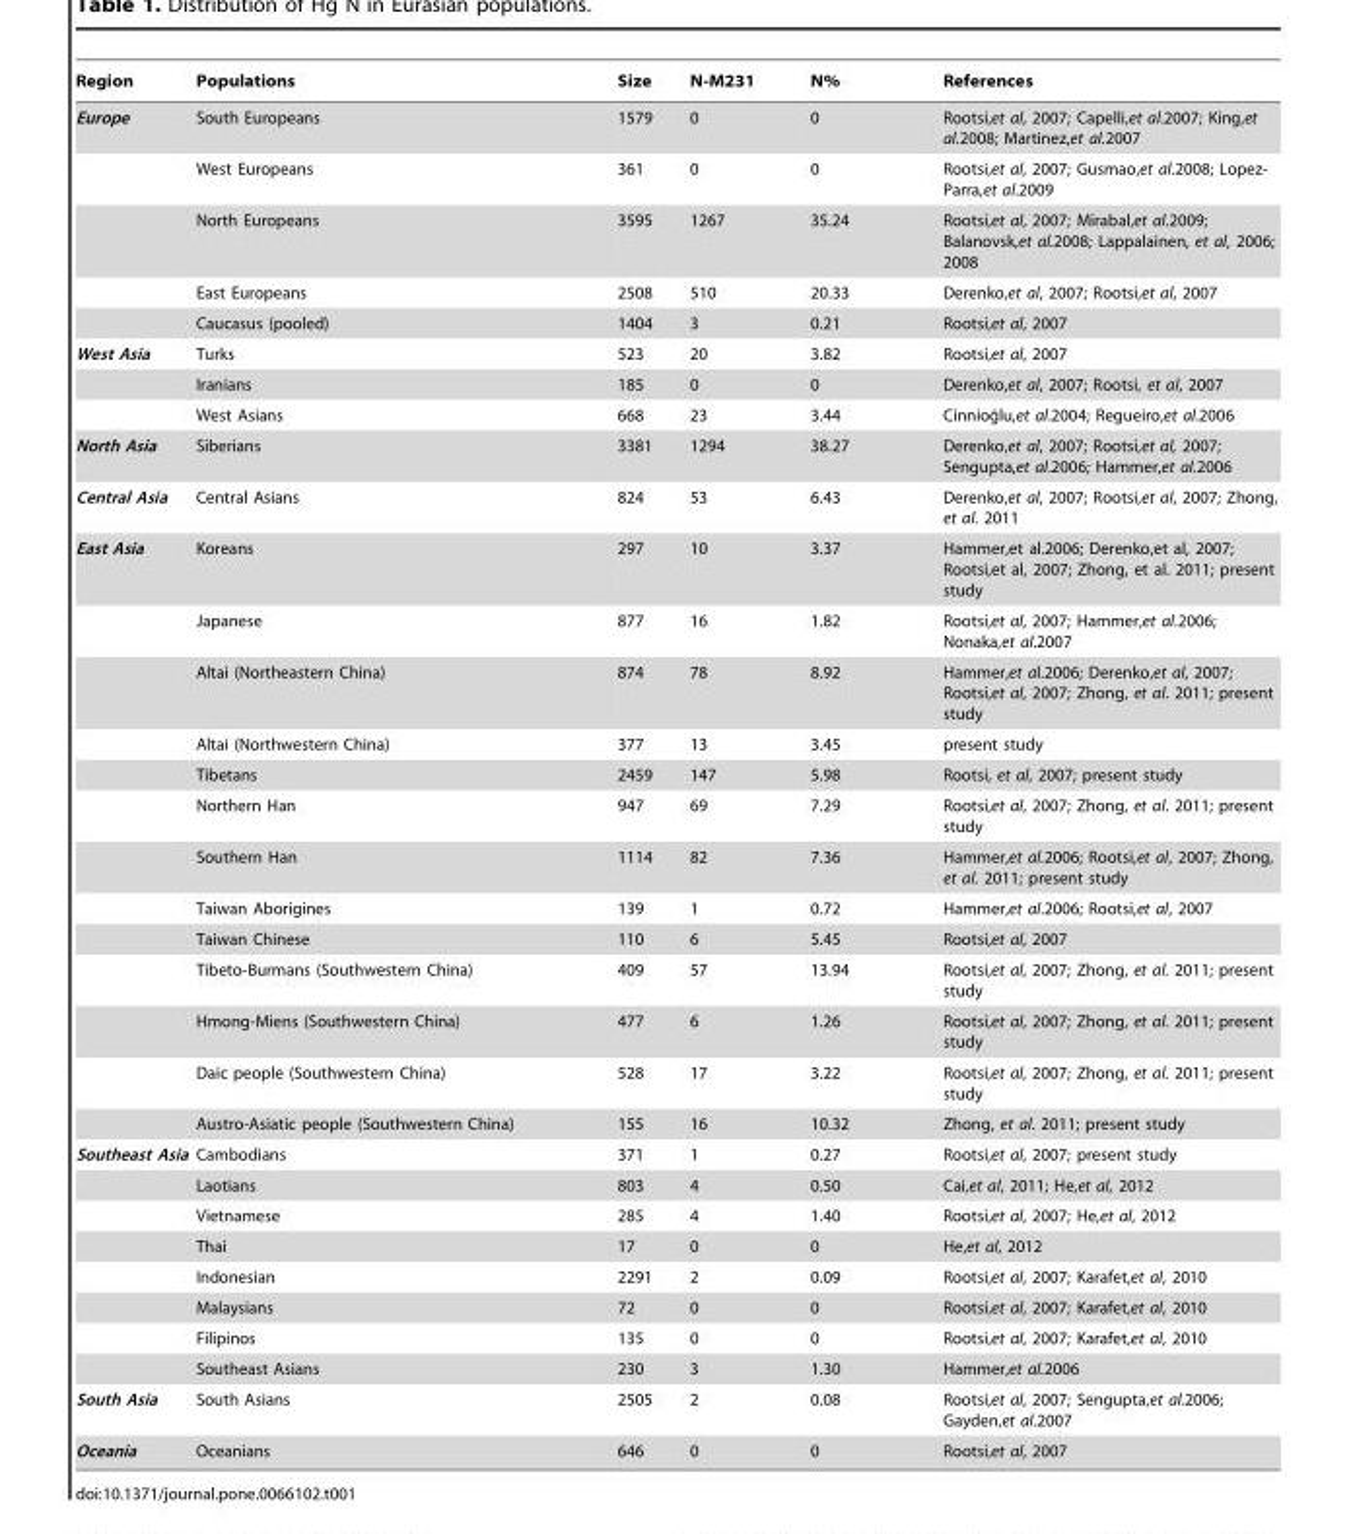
<table><thead><tr><td>Region</td><td>Populations</td><td>Size</td><td>N-M231</td><td>N%</td><td>References</td></tr></thead><tbody><tr><td rowspan="5">Europe</td><td>South Europeans</td><td>1579</td><td>0</td><td>0</td><td>Rootsi,et al, 2007; Capelli,et al.2007; King,et al.2008; Martinez,et al.2007</td></tr><tr><td>West Europeans</td><td>361</td><td>0</td><td>0</td><td>Rootsi,et al, 2007; Gusmao,et al.2008; Lopez- Parra,et al.2009</td></tr><tr><td>North Europeans</td><td>3595</td><td>1267</td><td>35.24</td><td>Rootsi,et al, 2007; Mirabal,et al.2009; Balanovsk,et al.2008; Lappalainen, et al, 2006; 2008</td></tr><tr><td>East Europeans</td><td>2508</td><td>510</td><td>20.33</td><td>Derenko,et al, 2007; Rootsi,et al, 2007</td></tr><tr><td>Caucasus (pooled)</td><td>1404</td><td>3</td><td>0.21</td><td>Rootsi,et al, 2007</td></tr><tr><td rowspan="3">West Asia</td><td>Turks</td><td>523</td><td>20</td><td>3.82</td><td>Rootsi,et al, 2007</td></tr><tr><td>Iranians</td><td>185</td><td>0</td><td>0</td><td>Derenko,et al, 2007; Rootsi, et al, 2007</td></tr><tr><td>West Asians</td><td>668</td><td>23</td><td>3.44</td><td>Cinniog˘lu,et al.2004; Regueiro,et al.2006</td></tr><tr><td>North Asia</td><td>Siberians</td><td>3381</td><td>1294</td><td>38.27</td><td>Derenko,et al, 2007; Rootsi,et al, 2007; Sengupta,et al.2006; Hammer,et al.2006</td></tr><tr><td>Central Asia</td><td>Central Asians</td><td>824</td><td>53</td><td>6.43</td><td>Derenko,et al, 2007; Rootsi,et al, 2007; Zhong, et al. 2011</td></tr><tr><td rowspan="13">East Asia</td><td>Koreans</td><td>297</td><td>10</td><td>3.37</td><td>Hammer,et al.2006; Derenko,et al, 2007; Rootsi,et al, 2007; Zhong, et al. 2011; present study</td></tr><tr><td>Japanese</td><td>877</td><td>16</td><td>1.82</td><td>Rootsi,et al, 2007; Hammer,et al.2006; Nonaka,et al.2007</td></tr><tr><td>Altai (Northeastern China)</td><td>874</td><td>78</td><td>8.92</td><td>Hammer,et al.2006; Derenko,et al, 2007; Rootsi,et al, 2007; Zhong, et al. 2011; present study</td></tr><tr><td>Altai (Northwestern China)</td><td>377</td><td>13</td><td>3.45</td><td>present study</td></tr><tr><td>Tibetans</td><td>2459</td><td>147</td><td>5.98</td><td>Rootsi, et al, 2007; present study</td></tr><tr><td>Northern Han</td><td>947</td><td>69</td><td>7.29</td><td>Rootsi,et al, 2007; Zhong, et al. 2011; present study</td></tr><tr><td>Southern Han</td><td>1114</td><td>82</td><td>7.36</td><td>Hammer,et al.2006; Rootsi,et al, 2007; Zhong, et al. 2011; present study</td></tr><tr><td>Taiwan Aborigines</td><td>139</td><td>1</td><td>0.72</td><td>Hammer,et al.2006; Rootsi,et al, 2007</td></tr><tr><td>Taiwan Chinese</td><td>110</td><td>6</td><td>5.45</td><td>Rootsi,et al, 2007</td></tr><tr><td>Tibeto-Burmans (Southwestern China)</td><td>409</td><td>57</td><td>13.94</td><td>Rootsi,et al, 2007; Zhong, et al. 2011; present study</td></tr><tr><td>Hmong-Miens (Southwestern China)</td><td>477</td><td>6</td><td>1.26</td><td>Rootsi,et al, 2007; Zhong, et al. 2011; present study</td></tr><tr><td>Daic people (Southwestern China)</td><td>528</td><td>17</td><td>3.22</td><td>Rootsi,et al, 2007; Zhong, et al. 2011; present study</td></tr><tr><td>Austro-Asiatic people (Southwestern China)</td><td>155</td><td>16</td><td>10.32</td><td>Zhong, et al. 2011; present study</td></tr><tr><td rowspan="8">Southeast Asia</td><td>Cambodians</td><td>371</td><td>1</td><td>0.27</td><td>Rootsi,et al, 2007; present study</td></tr><tr><td>Laotians</td><td>803</td><td>4</td><td>0.50</td><td>Cai,et al, 2011; He,et al, 2012</td></tr><tr><td>Vietnamese</td><td>285</td><td>4</td><td>1.40</td><td>Rootsi,et al, 2007; He,et al, 2012</td></tr><tr><td>Thai</td><td>17</td><td>0</td><td>0</td><td>He,et al, 2012</td></tr><tr><td>Indonesian</td><td>2291</td><td>2</td><td>0.09</td><td>Rootsi,et al, 2007; Karafet,et al, 2010</td></tr><tr><td>Malaysians</td><td>72</td><td>0</td><td>0</td><td>Rootsi,et al, 2007; Karafet,et al, 2010</td></tr><tr><td>Filipinos</td><td>135</td><td>0</td><td>0</td><td>Rootsi,et al, 2007; Karafet,et al, 2010</td></tr><tr><td>Southeast Asians</td><td>230</td><td>3</td><td>1.30</td><td>Hammer,et al.2006</td></tr><tr><td>South Asia</td><td>South Asians</td><td>2505</td><td>2</td><td>0.08</td><td>Rootsi,et al, 2007; Sengupta,et al.2006; Gayden,et al.2007</td></tr><tr><td>Oceania</td><td>Oceanians</td><td>646</td><td>0</td><td>0</td><td>Rootsi,et al, 2007</td></tr></tbody></table>